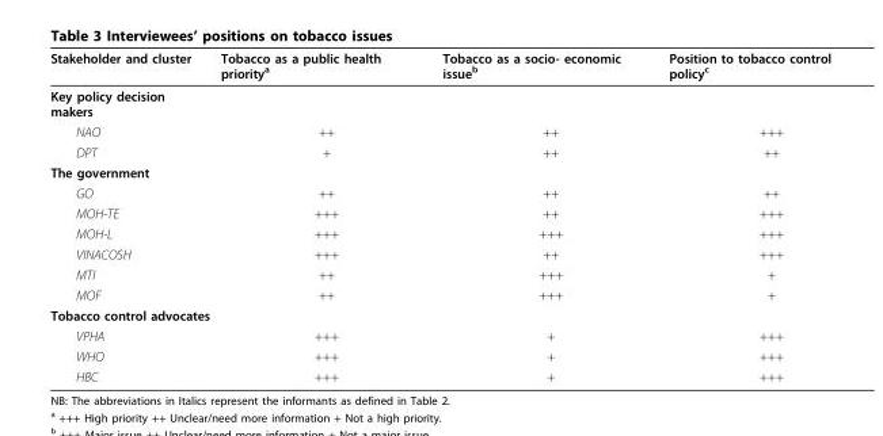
<table><thead><tr><td>Stakeholder and cluster</td><td>Tobacco as a public health priority<sup>a</sup></td><td>Tobacco as a socio- economic issue<sup>b</sup></td><td>Position to tobacco control policy<sup>c</sup></td></tr></thead><tbody><tr><td colspan="4">Key policy decision makers</td></tr><tr><td>NAO</td><td>++</td><td>++</td><td>+++</td></tr><tr><td>DPT</td><td>+</td><td>++</td><td>++</td></tr><tr><td colspan="4">The government</td></tr><tr><td>GO</td><td>++</td><td>++</td><td>++</td></tr><tr><td>MOH-TE</td><td>+++</td><td>++</td><td>+++</td></tr><tr><td>MOH-L</td><td>+++</td><td>+++</td><td>+++</td></tr><tr><td>VINACOSH</td><td>+++</td><td>++</td><td>+++</td></tr><tr><td>MTI</td><td>++</td><td>+++</td><td>+</td></tr><tr><td>MOF</td><td>++</td><td>+++</td><td>+</td></tr><tr><td colspan="4">Tobacco control advocates</td></tr><tr><td>VPHA</td><td>+++</td><td>+</td><td>+++</td></tr><tr><td>WHO</td><td>+++</td><td>+</td><td>+++</td></tr><tr><td>HBC</td><td>+++</td><td>+</td><td>+++</td></tr></tbody></table>